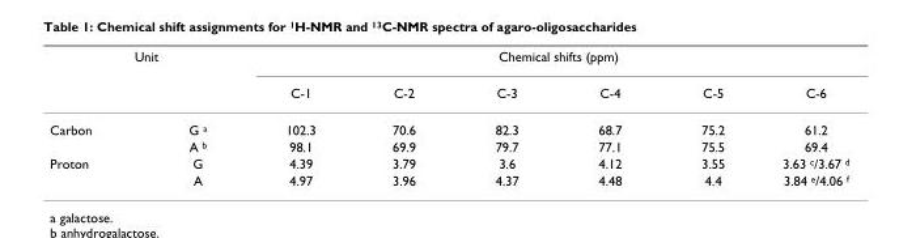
<table><thead><tr><td colspan="2">Unit</td><td colspan="6">Chemical shifts (ppm)</td></tr><tr><td></td><td></td><td>C-1</td><td>C-2</td><td>C-3</td><td>C-4</td><td>C-5</td><td>C-6</td></tr></thead><tbody><tr><td rowspan="2">Carbon</td><td>G <sup>a</sup></td><td>102.3</td><td>70.6</td><td>82.3</td><td>68.7</td><td>75.2</td><td>61.2</td></tr><tr><td>A <sup>b</sup></td><td>98.1</td><td>69.9</td><td>79.7</td><td>77.1</td><td>75.5</td><td>69.4</td></tr><tr><td rowspan="2">Proton</td><td>G</td><td>4.39</td><td>3.79</td><td>3.6</td><td>4.12</td><td>3.55</td><td>3.63 <sup>c</sup>/3.67 <sup>d</sup></td></tr><tr><td>A</td><td>4.97</td><td>3.96</td><td>4.37</td><td>4.48</td><td>4.4</td><td>3.84 <sup>e</sup>/4.06 <sup>f</sup></td></tr></tbody></table>